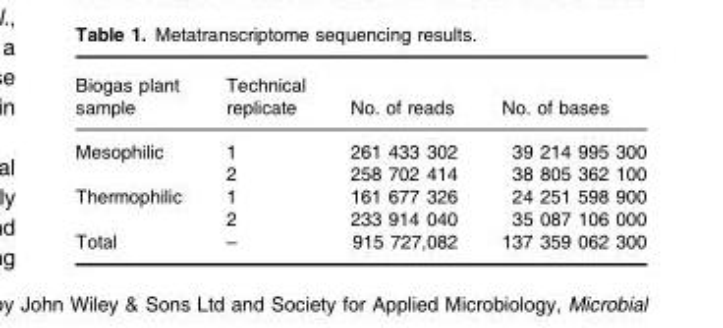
<table><thead><tr><td>Biogas plant sample</td><td>Technical replicate</td><td>No. of reads</td><td>No. of bases</td></tr></thead><tbody><tr><td rowspan="2">Mesophilic</td><td>1</td><td>261 433 302</td><td>39 214 995 300</td></tr><tr><td>2</td><td>258 702 414</td><td>38 805 362 100</td></tr><tr><td rowspan="2">Thermophilic</td><td>1</td><td>161 677 326</td><td>24 251 598 900</td></tr><tr><td>2</td><td>233 914 040</td><td>35 087 106 000</td></tr><tr><td>Total</td><td>–</td><td>915 727,082</td><td>137 359 062 300</td></tr></tbody></table>